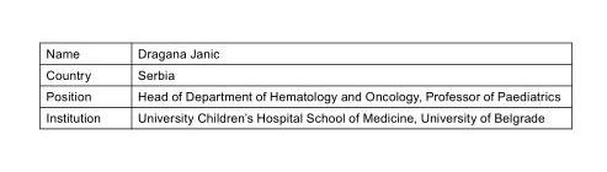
<table><tbody><tr><td>Name</td><td>Dragana Janic</td></tr><tr><td>Country</td><td>Serbia</td></tr><tr><td>Position</td><td>Head of Department of Hematology and Oncology, Professor of Paediatrics</td></tr><tr><td>Institution</td><td>University Children’s Hospital School of Medicine, University of Belgrade</td></tr></tbody></table>